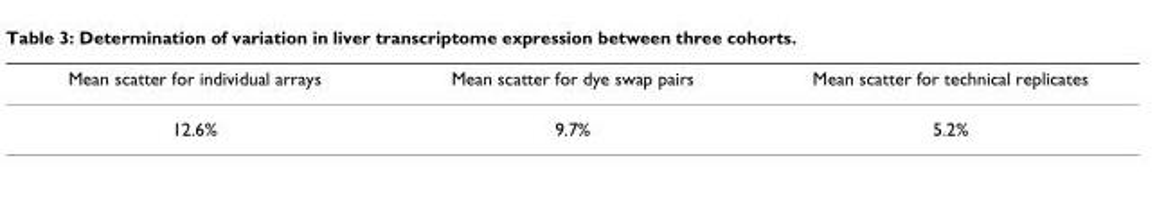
<table><thead><tr><td>Mean scatter for individual arrays</td><td>Mean scatter for dye swap pairs</td><td>Mean scatter for technical replicates</td></tr></thead><tbody><tr><td>12.6%</td><td>9.7%</td><td>5.2%</td></tr></tbody></table>